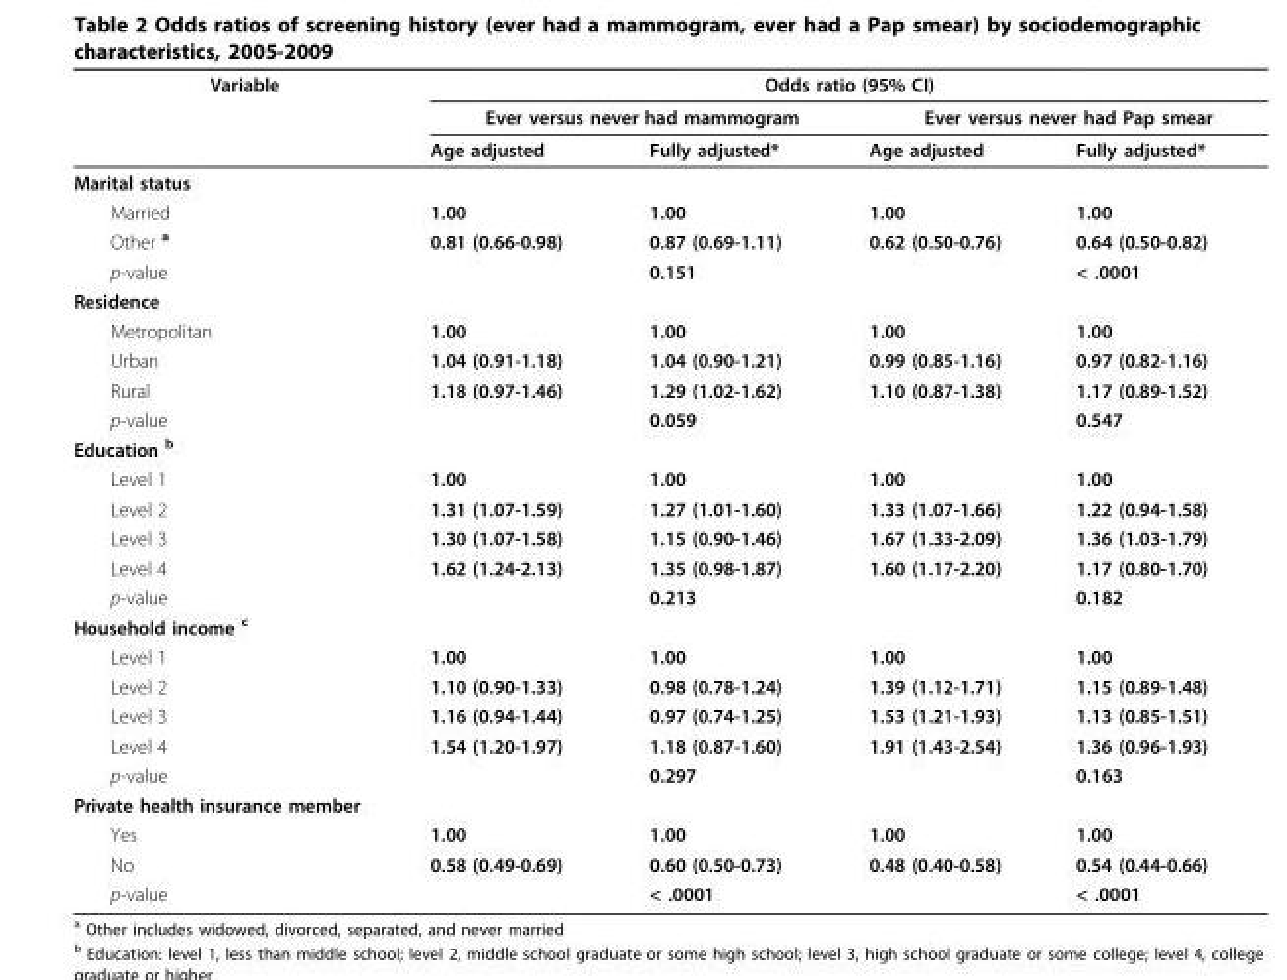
<table><thead><tr><td rowspan="3">Variable</td><td colspan="4">Odds ratio (95% CI)</td></tr><tr><td colspan="2">Ever versus never had mammogram</td><td colspan="2">Ever versus never had Pap smear</td></tr><tr><td>Age adjusted</td><td>Fully adjusted*</td><td>Age adjusted</td><td>Fully adjusted*</td></tr></thead><tbody><tr><td colspan="5">Marital status</td></tr><tr><td>Married</td><td>1.00</td><td>1.00</td><td>1.00</td><td>1.00</td></tr><tr><td>Other <sup>a</sup></td><td>0.81 (0.66-0.98)</td><td>0.87 (0.69-1.11)</td><td>0.62 (0.50-0.76)</td><td>0.64 (0.50-0.82)</td></tr><tr><td>p-value</td><td></td><td>0.151</td><td></td><td>&lt; .0001</td></tr><tr><td colspan="5">Residence</td></tr><tr><td>Metropolitan</td><td>1.00</td><td>1.00</td><td>1.00</td><td>1.00</td></tr><tr><td>Urban</td><td>1.04 (0.91-1.18)</td><td>1.04 (0.90-1.21)</td><td>0.99 (0.85-1.16)</td><td>0.97 (0.82-1.16)</td></tr><tr><td>Rural</td><td>1.18 (0.97-1.46)</td><td>1.29 (1.02-1.62)</td><td>1.10 (0.87-1.38)</td><td>1.17 (0.89-1.52)</td></tr><tr><td>p-value</td><td></td><td>0.059</td><td></td><td>0.547</td></tr><tr><td colspan="5">Education <sup>b</sup></td></tr><tr><td>Level 1</td><td>1.00</td><td>1.00</td><td>1.00</td><td>1.00</td></tr><tr><td>Level 2</td><td>1.31 (1.07-1.59)</td><td>1.27 (1.01-1.60)</td><td>1.33 (1.07-1.66)</td><td>1.22 (0.94-1.58)</td></tr><tr><td>Level 3</td><td>1.30 (1.07-1.58)</td><td>1.15 (0.90-1.46)</td><td>1.67 (1.33-2.09)</td><td>1.36 (1.03-1.79)</td></tr><tr><td>Level 4</td><td>1.62 (1.24-2.13)</td><td>1.35 (0.98-1.87)</td><td>1.60 (1.17-2.20)</td><td>1.17 (0.80-1.70)</td></tr><tr><td>p-value</td><td></td><td>0.213</td><td></td><td>0.182</td></tr><tr><td colspan="5">Household income <sup>c</sup></td></tr><tr><td>Level 1</td><td>1.00</td><td>1.00</td><td>1.00</td><td>1.00</td></tr><tr><td>Level 2</td><td>1.10 (0.90-1.33)</td><td>0.98 (0.78-1.24)</td><td>1.39 (1.12-1.71)</td><td>1.15 (0.89-1.48)</td></tr><tr><td>Level 3</td><td>1.16 (0.94-1.44)</td><td>0.97 (0.74-1.25)</td><td>1.53 (1.21-1.93)</td><td>1.13 (0.85-1.51)</td></tr><tr><td>Level 4</td><td>1.54 (1.20-1.97)</td><td>1.18 (0.87-1.60)</td><td>1.91 (1.43-2.54)</td><td>1.36 (0.96-1.93)</td></tr><tr><td>p-value</td><td></td><td>0.297</td><td></td><td>0.163</td></tr><tr><td colspan="5">Private health insurance member</td></tr><tr><td>Yes</td><td>1.00</td><td>1.00</td><td>1.00</td><td>1.00</td></tr><tr><td>No</td><td>0.58 (0.49-0.69)</td><td>0.60 (0.50-0.73)</td><td>0.48 (0.40-0.58)</td><td>0.54 (0.44-0.66)</td></tr><tr><td>p-value</td><td></td><td>&lt; .0001</td><td></td><td>&lt; .0001</td></tr></tbody></table>